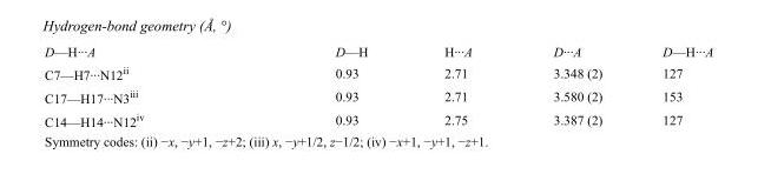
<table><tbody><tr><td>D—H···A</td><td>D—H</td><td>H···A</td><td>D···A</td><td>D—H···A</td></tr><tr><td>C7—H7···N12<sup>ii</sup></td><td>0.93</td><td>2.71</td><td>3.348 (2)</td><td>127</td></tr><tr><td>C17—H17···N3<sup>iii</sup></td><td>0.93</td><td>2.71</td><td>3.580 (2)</td><td>153</td></tr><tr><td>C14—H14···N12<sup>iv</sup></td><td>0.93</td><td>2.75</td><td>3.387 (2)</td><td>127</td></tr></tbody></table>